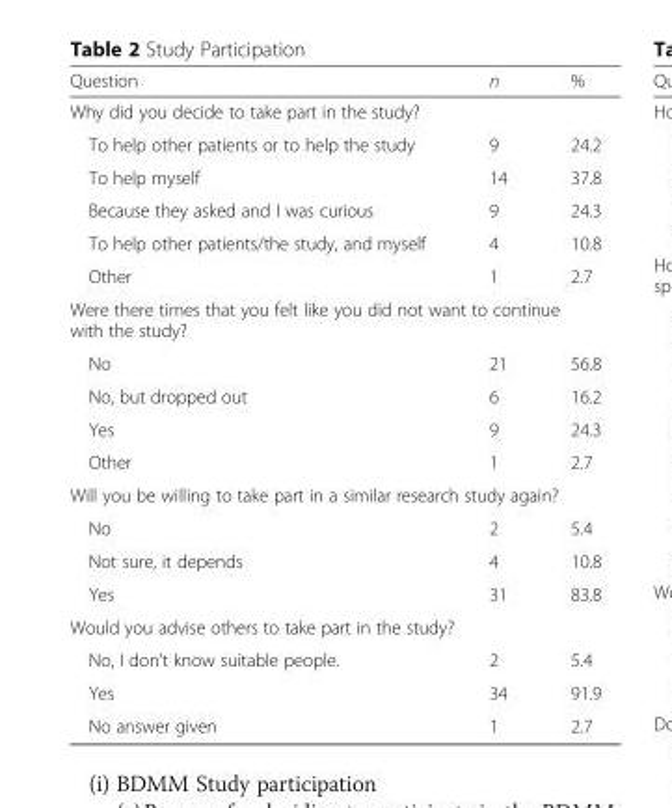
<table><thead><tr><td>Question</td><td>n</td><td>%</td></tr></thead><tbody><tr><td colspan="3">Why did you decide to take part in the study?</td></tr><tr><td>To help other patients or to help the study</td><td>9</td><td>24.2</td></tr><tr><td>To help myself</td><td>14</td><td>37.8</td></tr><tr><td>Because they asked and I was curious</td><td>9</td><td>24.3</td></tr><tr><td>To help other patients/the study, and myself</td><td>4</td><td>10.8</td></tr><tr><td>Other</td><td>1</td><td>2.7</td></tr><tr><td colspan="3">Were there times that you felt like you did not want to continue with the study?</td></tr><tr><td>No</td><td>21</td><td>56.8</td></tr><tr><td>No, but dropped out</td><td>6</td><td>16.2</td></tr><tr><td>Yes</td><td>9</td><td>24.3</td></tr><tr><td>Other</td><td>1</td><td>2.7</td></tr><tr><td colspan="3">Will you be willing to take part in a similar research study again?</td></tr><tr><td>No</td><td>2</td><td>5.4</td></tr><tr><td>Not sure, it depends</td><td>4</td><td>10.8</td></tr><tr><td>Yes</td><td>31</td><td>83.8</td></tr><tr><td colspan="3">Would you advise others to take part in the study?</td></tr><tr><td>No, I don’t know suitable people.</td><td>2</td><td>5.4</td></tr><tr><td>Yes</td><td>34</td><td>91.9</td></tr><tr><td>No answer given</td><td>1</td><td>2.7</td></tr></tbody></table>